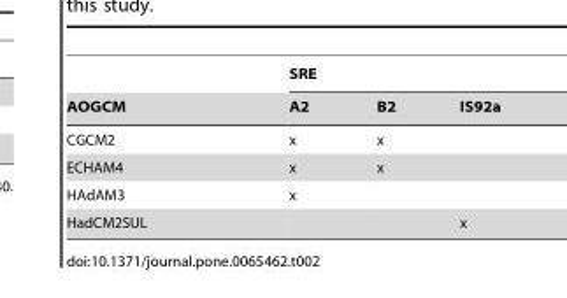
<table><thead><tr><td rowspan="2">AOGCM</td><td colspan="3">SRE</td></tr><tr><td>A2</td><td>B2</td><td>IS92a</td></tr></thead><tbody><tr><td>CGCM2</td><td>x</td><td>x</td><td></td></tr><tr><td>ECHAM4</td><td>x</td><td>x</td><td></td></tr><tr><td>HAdAM3</td><td>x</td><td></td><td></td></tr><tr><td>HadCM2SUL</td><td></td><td></td><td>x</td></tr></tbody></table>